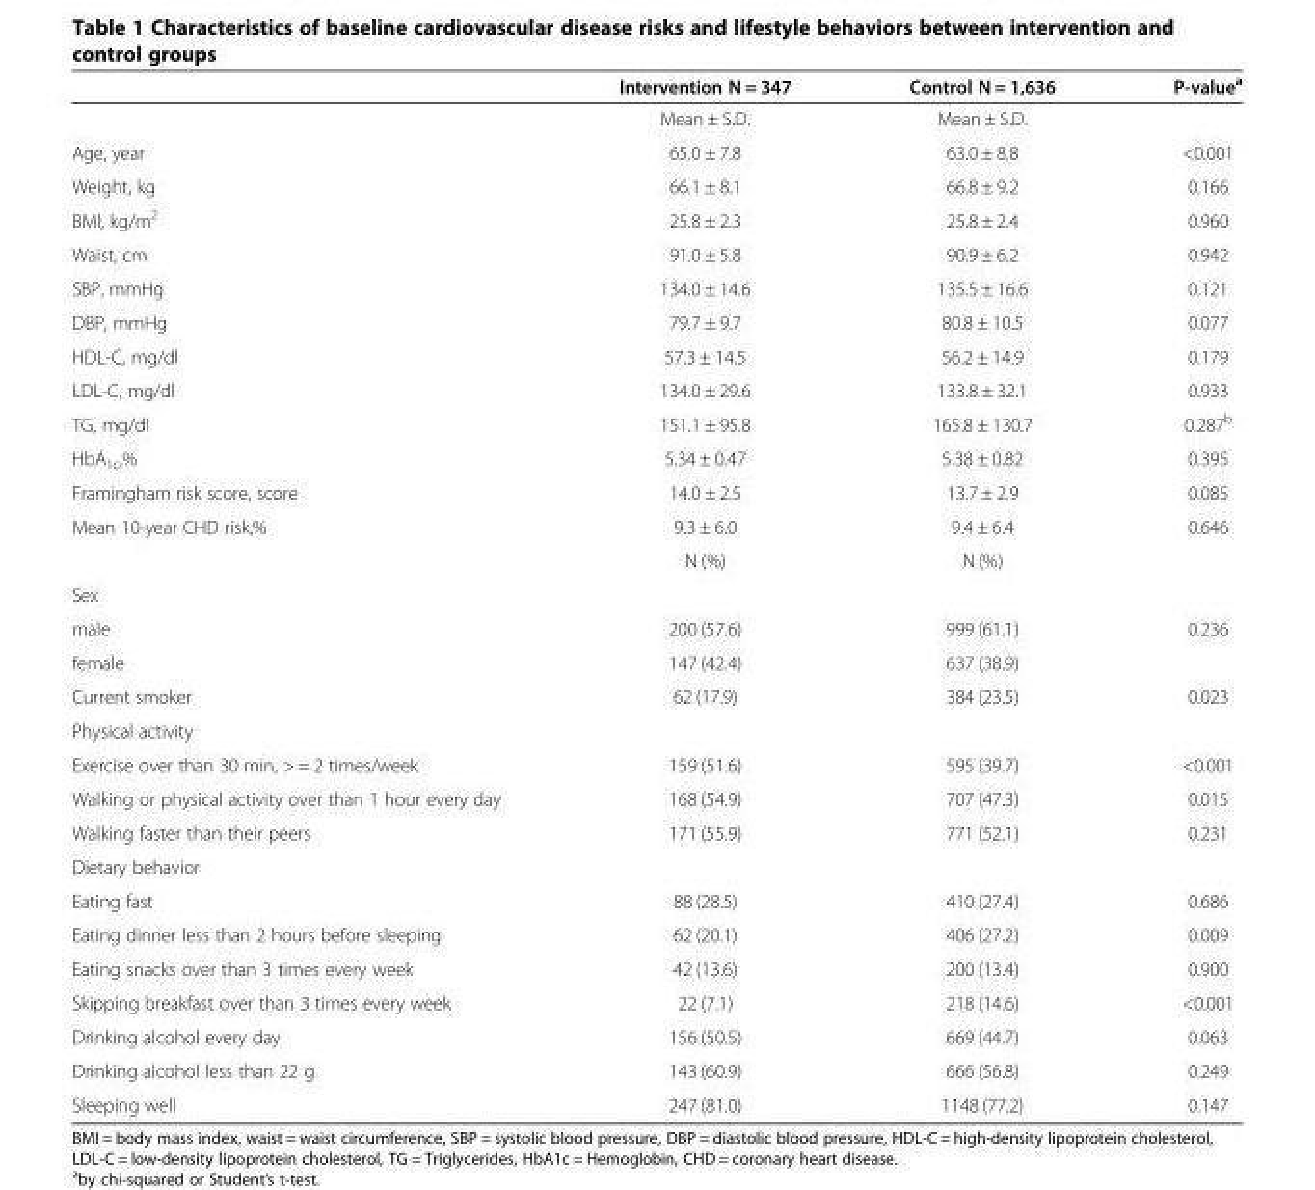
<table><thead><tr><td></td><td>Intervention N = 347</td><td>Control N = 1,636</td><td>P-value<sup>a</sup></td></tr></thead><tbody><tr><td></td><td>Mean ± S.D.</td><td>Mean ± S.D.</td><td></td></tr><tr><td>Age, year</td><td>65.0 ± 7.8</td><td>63.0 ± 8.8</td><td>&lt;0.001</td></tr><tr><td>Weight, kg</td><td>66.1 ± 8.1</td><td>66.8 ± 9.2</td><td>0.166</td></tr><tr><td>BMI, kg/m<sup>2</sup></td><td>25.8 ± 2.3</td><td>25.8 ± 2.4</td><td>0.960</td></tr><tr><td>Waist, cm</td><td>91.0 ± 5.8</td><td>90.9 ± 6.2</td><td>0.942</td></tr><tr><td>SBP, mmHg</td><td>134.0 ± 14.6</td><td>135.5 ± 16.6</td><td>0.121</td></tr><tr><td>DBP, mmHg</td><td>79.7 ± 9.7</td><td>80.8 ± 10.5</td><td>0.077</td></tr><tr><td>HDL-C, mg/dl</td><td>57.3 ± 14.5</td><td>56.2 ± 14.9</td><td>0.179</td></tr><tr><td>LDL-C, mg/dl</td><td>134.0 ± 29.6</td><td>133.8 ± 32.1</td><td>0.933</td></tr><tr><td>TG, mg/dl</td><td>151.1 ± 95.8</td><td>165.8 ± 130.7</td><td>0.287<sup>b</sup></td></tr><tr><td>HbA<sub>1c</sub>,%</td><td>5.34 ± 0.47</td><td>5.38 ± 0.82</td><td>0.395</td></tr><tr><td>Framingham risk score, score</td><td>14.0 ± 2.5</td><td>13.7 ± 2.9</td><td>0.085</td></tr><tr><td rowspan="2">Mean 10-year CHD risk,%</td><td>9.3 ± 6.0</td><td>9.4 ± 6.4</td><td>0.646</td></tr><tr><td>N (%)</td><td>N (%)</td><td></td></tr><tr><td colspan="4">Sex</td></tr><tr><td>male</td><td>200 (57.6)</td><td>999 (61.1)</td><td rowspan="2">0.236</td></tr><tr><td>female</td><td>147 (42.4)</td><td>637 (38.9)</td></tr><tr><td>Current smoker</td><td>62 (17.9)</td><td>384 (23.5)</td><td>0.023</td></tr><tr><td colspan="4">Physical activity</td></tr><tr><td>Exercise over than 30 min, &gt; = 2 times/week</td><td>159 (51.6)</td><td>595 (39.7)</td><td>&lt;0.001</td></tr><tr><td>Walking or physical activity over than 1 hour every day</td><td>168 (54.9)</td><td>707 (47.3)</td><td>0.015</td></tr><tr><td>Walking faster than their peers</td><td>171 (55.9)</td><td>771 (52.1)</td><td>0.231</td></tr><tr><td colspan="4">Dietary behavior</td></tr><tr><td>Eating fast</td><td>88 (28.5)</td><td>410 (27.4)</td><td>0.686</td></tr><tr><td>Eating dinner less than 2 hours before sleeping</td><td>62 (20.1)</td><td>406 (27.2)</td><td>0.009</td></tr><tr><td>Eating snacks over than 3 times every week</td><td>42 (13.6)</td><td>200 (13.4)</td><td>0.900</td></tr><tr><td>Skipping breakfast over than 3 times every week</td><td>22 (7.1)</td><td>218 (14.6)</td><td>&lt;0.001</td></tr><tr><td>Drinking alcohol every day</td><td>156 (50.5)</td><td>669 (44.7)</td><td>0.063</td></tr><tr><td>Drinking alcohol less than 22 g</td><td>143 (60.9)</td><td>666 (56.8)</td><td>0.249</td></tr><tr><td>Sleeping well</td><td>247 (81.0)</td><td>1148 (77.2)</td><td>0.147</td></tr></tbody></table>